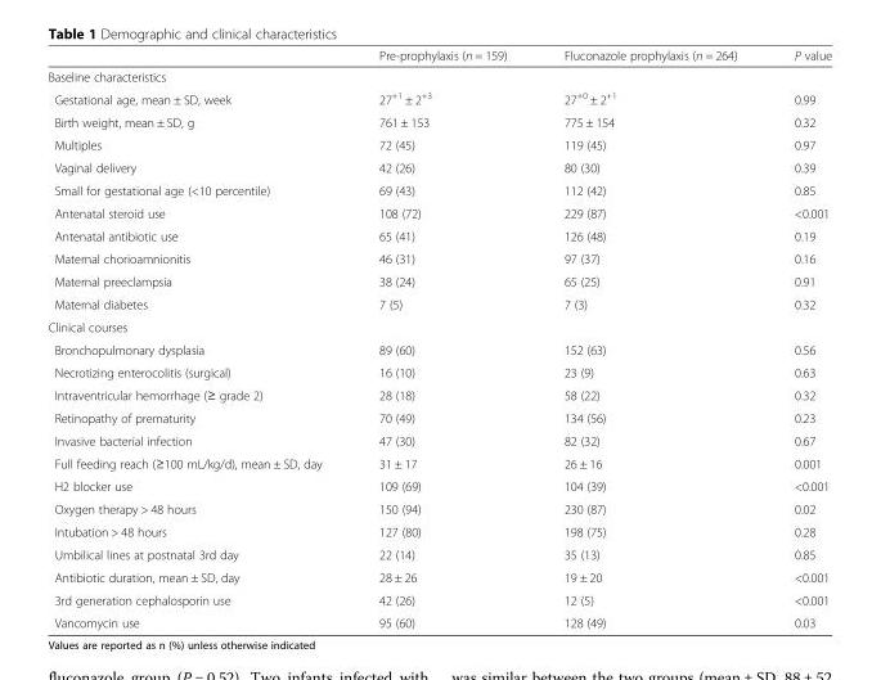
<table><thead><tr><td></td><td>Pre-prophylaxis (n = 159)</td><td>Fluconazole prophylaxis (n = 264)</td><td>P value</td></tr></thead><tbody><tr><td colspan="4">Baseline characteristics</td></tr><tr><td>Gestational age, mean ± SD, week</td><td>27<sup>+1</sup> ± 2<sup>+3</sup></td><td>27<sup>+0</sup> ± 2<sup>+1</sup></td><td>0.99</td></tr><tr><td>Birth weight, mean ± SD, g</td><td>761 ± 153</td><td>775 ± 154</td><td>0.32</td></tr><tr><td>Multiples</td><td>72 (45)</td><td>119 (45)</td><td>0.97</td></tr><tr><td>Vaginal delivery</td><td>42 (26)</td><td>80 (30)</td><td>0.39</td></tr><tr><td>Small for gestational age (&lt;10 percentile)</td><td>69 (43)</td><td>112 (42)</td><td>0.85</td></tr><tr><td>Antenatal steroid use</td><td>108 (72)</td><td>229 (87)</td><td>&lt;0.001</td></tr><tr><td>Antenatal antibiotic use</td><td>65 (41)</td><td>126 (48)</td><td>0.19</td></tr><tr><td>Maternal chorioamnionitis</td><td>46 (31)</td><td>97 (37)</td><td>0.16</td></tr><tr><td>Maternal preeclampsia</td><td>38 (24)</td><td>65 (25)</td><td>0.91</td></tr><tr><td>Maternal diabetes</td><td>7 (5)</td><td>7 (3)</td><td>0.32</td></tr><tr><td colspan="4">Clinical courses</td></tr><tr><td>Bronchopulmonary dysplasia</td><td>89 (60)</td><td>152 (63)</td><td>0.56</td></tr><tr><td>Necrotizing enterocolitis (surgical)</td><td>16 (10)</td><td>23 (9)</td><td>0.63</td></tr><tr><td>Intraventricular hemorrhage (≥ grade 2)</td><td>28 (18)</td><td>58 (22)</td><td>0.32</td></tr><tr><td>Retinopathy of prematurity</td><td>70 (49)</td><td>134 (56)</td><td>0.23</td></tr><tr><td>Invasive bacterial infection</td><td>47 (30)</td><td>82 (32)</td><td>0.67</td></tr><tr><td>Full feeding reach (≥100 mL/kg/d), mean ± SD, day</td><td>31 ± 17</td><td>26 ± 16</td><td>0.001</td></tr><tr><td>H2 blocker use</td><td>109 (69)</td><td>104 (39)</td><td>&lt;0.001</td></tr><tr><td>Oxygen therapy &gt; 48 hours</td><td>150 (94)</td><td>230 (87)</td><td>0.02</td></tr><tr><td>Intubation &gt; 48 hours</td><td>127 (80)</td><td>198 (75)</td><td>0.28</td></tr><tr><td>Umbilical lines at postnatal 3rd day</td><td>22 (14)</td><td>35 (13)</td><td>0.85</td></tr><tr><td>Antibiotic duration, mean ± SD, day</td><td>28 ± 26</td><td>19 ± 20</td><td>&lt;0.001</td></tr><tr><td>3rd generation cephalosporin use</td><td>42 (26)</td><td>12 (5)</td><td>&lt;0.001</td></tr><tr><td>Vancomycin use</td><td>95 (60)</td><td>128 (49)</td><td>0.03</td></tr></tbody></table>